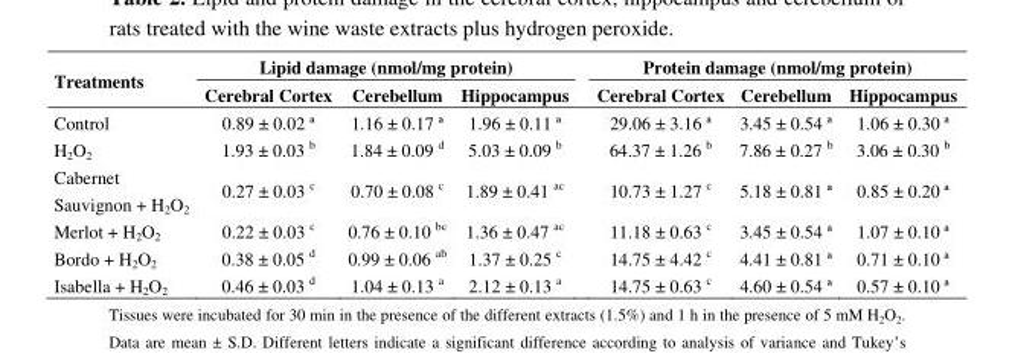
<table><thead><tr><td rowspan="2">Treatments</td><td colspan="3">Lipid damage (nmol/mg protein)</td><td colspan="3">Protein damage (nmol/mg protein)</td></tr><tr><td>Cerebral Cortex</td><td>Cerebellum</td><td>Hippocampus</td><td>Cerebral Cortex</td><td>Cerebellum</td><td>Hippocampus</td></tr></thead><tbody><tr><td>Control</td><td>0.89 ± 0.02 ª</td><td>1.16 ± 0.17 ª</td><td>1.96 ± 0.11 ª</td><td>29.06 ± 3.16 ª</td><td>3.45 ± 0.54 ª</td><td>1.06 ± 0.30 ª</td></tr><tr><td>H<sub>2</sub>O<sub>2</sub></td><td>1.93 ± 0.03 <sup>b</sup></td><td>1.84 ± 0.09 <sup>d</sup></td><td>5.03 ± 0.09 <sup>b</sup></td><td>64.37 ± 1.26 <sup>b</sup></td><td>7.86 ± 0.27 <sup>b</sup></td><td>3.06 ± 0.30 <sup>b</sup></td></tr><tr><td>Cabernet Sauvignon + H<sub>2</sub>O<sub>2</sub></td><td>0.27 ± 0.03 <sup>c</sup></td><td>0.70 ± 0.08 <sup>c</sup></td><td>1.89 ± 0.41 <sup>ac</sup></td><td>10.73 ± 1.27 <sup>c</sup></td><td>5.18 ± 0.81 ª</td><td>0.85 ± 0.20 ª</td></tr><tr><td>Merlot + H<sub>2</sub>O<sub>2</sub></td><td>0.22 ± 0.03 <sup>c</sup></td><td>0.76 ± 0.10 <sup>bc</sup></td><td>1.36 ± 0.47 <sup>ac</sup></td><td>11.18 ± 0.63 <sup>c</sup></td><td>3.45 ± 0.54 ª</td><td>1.07 ± 0.10 ª</td></tr><tr><td>Bordo + H<sub>2</sub>O<sub>2</sub></td><td>0.38 ± 0.05 <sup>d</sup></td><td>0.99 ± 0.06 <sup>ab</sup></td><td>1.37 ± 0.25 <sup>c</sup></td><td>14.75 ± 4.42 <sup>c</sup></td><td>4.41 ± 0.81 ª</td><td>0.71 ± 0.10 ª</td></tr><tr><td>Isabella + H<sub>2</sub>O<sub>2</sub></td><td>0.46 ± 0.03 <sup>d</sup></td><td>1.04 ± 0.13 <sup>a</sup></td><td>2.12 ± 0.13 <sup>a</sup></td><td>14.75 ± 0.63 <sup>c</sup></td><td>4.60 ± 0.54 ª</td><td>0.57 ± 0.10 ª</td></tr></tbody></table>